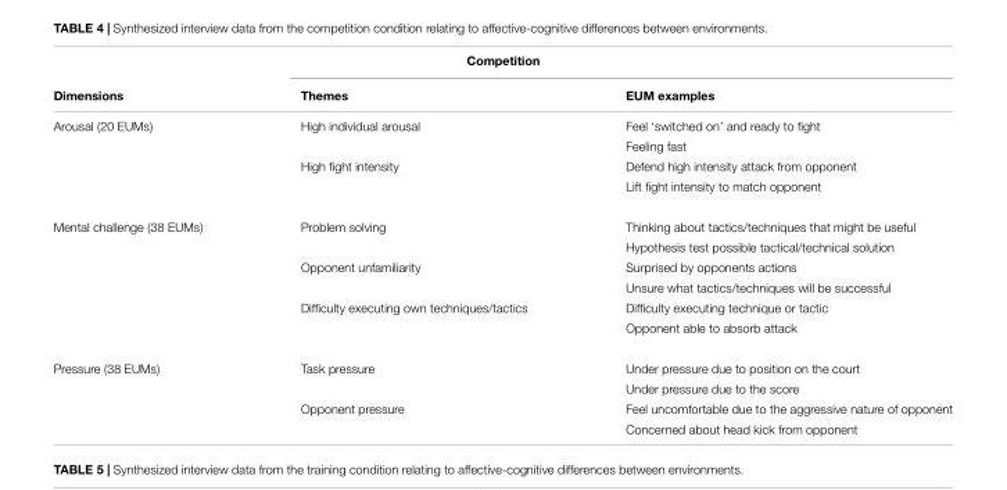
<table><thead><tr><td rowspan="2">Dimensions</td><td colspan="2">Competition</td></tr><tr><td>Themes</td><td>EUM examples</td></tr></thead><tbody><tr><td rowspan="4">Arousal (20 EUMs)</td><td>High individual arousal</td><td>Feel ‘switched on’ and ready to fight</td></tr><tr><td></td><td>Feeling fast</td></tr><tr><td>High fight intensity</td><td>Defend high intensity attack from opponent</td></tr><tr><td></td><td>Lift fight intensity to match opponent</td></tr><tr><td rowspan="6">Mental challenge (38 EUMs)</td><td>Problem solving</td><td>Thinking about tactics/techniques that might be useful</td></tr><tr><td></td><td>Hypothesis test possible tactical/technical solution</td></tr><tr><td>Opponent unfamiliarity</td><td>Surprised by opponents actions</td></tr><tr><td></td><td>Unsure what tactics/techniques will be successful</td></tr><tr><td>Difficulty executing own techniques/tactics</td><td>Difficulty executing technique or tactic</td></tr><tr><td></td><td>Opponent able to absorb attack</td></tr><tr><td rowspan="4">Pressure (38 EUMs)</td><td>Task pressure</td><td>Under pressure due to position on the court</td></tr><tr><td></td><td>Under pressure due to the score</td></tr><tr><td>Opponent pressure</td><td>Feel uncomfortable due to the aggressive nature of opponent</td></tr><tr><td></td><td>Concerned about head kick from opponent</td></tr></tbody></table>